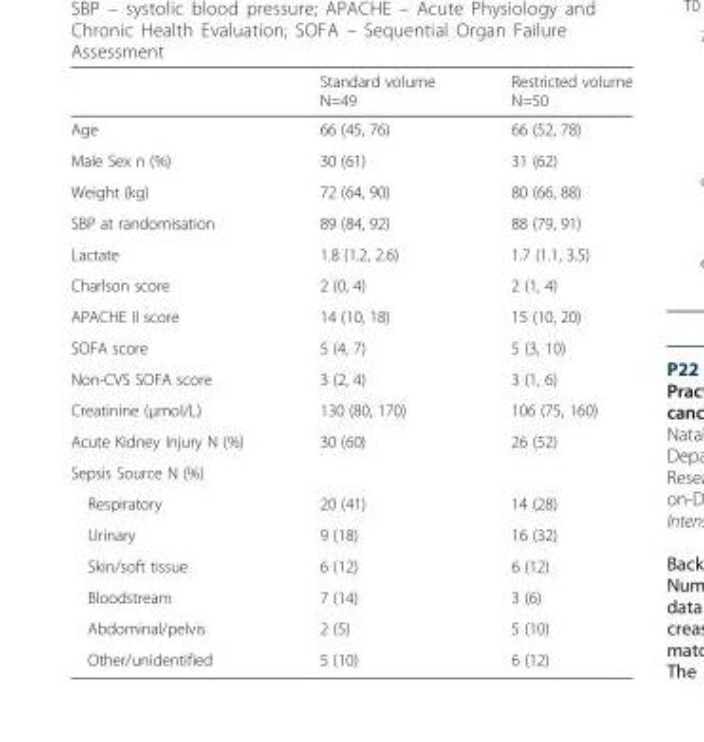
<table><thead><tr><td></td><td>Standard volume N=49</td><td>Restricted volume N=50</td></tr></thead><tbody><tr><td>Age</td><td>66 (45, 76)</td><td>66 (52, 78)</td></tr><tr><td>Male Sex n (%)</td><td>30 (61)</td><td>31 (62)</td></tr><tr><td>Weight (kg)</td><td>72 (64, 90)</td><td>80 (66, 88)</td></tr><tr><td>SBP at randomisation</td><td>89 (84, 92)</td><td>88 (79, 91)</td></tr><tr><td>Lactate</td><td>1.8 (1.2, 2.6)</td><td>1.7 (1.1, 3.5)</td></tr><tr><td>Charlson score</td><td>2 (0, 4)</td><td>2 (1, 4)</td></tr><tr><td>APACHE II score</td><td>14 (10, 18)</td><td>15 (10, 20)</td></tr><tr><td>SOFA score</td><td>5 (4, 7)</td><td>5 (3, 10)</td></tr><tr><td>Non-CVS SOFA score</td><td>3 (2, 4)</td><td>3 (1, 6)</td></tr><tr><td>Creatinine (μmol/L)</td><td>130 (80, 170)</td><td>106 (75, 160)</td></tr><tr><td>Acute Kidney Injury N (%)</td><td>30 (60)</td><td>26 (52)</td></tr><tr><td colspan="3">Sepsis Source N (%)</td></tr><tr><td>Respiratory</td><td>20 (41)</td><td>14 (28)</td></tr><tr><td>Urinary</td><td>9 (18)</td><td>16 (32)</td></tr><tr><td>Skin/soft tissue</td><td>6 (12)</td><td>6 (12)</td></tr><tr><td>Bloodstream</td><td>7 (14)</td><td>3 (6)</td></tr><tr><td>Abdominal/pelvis</td><td>2 (5)</td><td>5 (10)</td></tr><tr><td>Other/unidentified</td><td>5 (10)</td><td>6 (12)</td></tr></tbody></table>